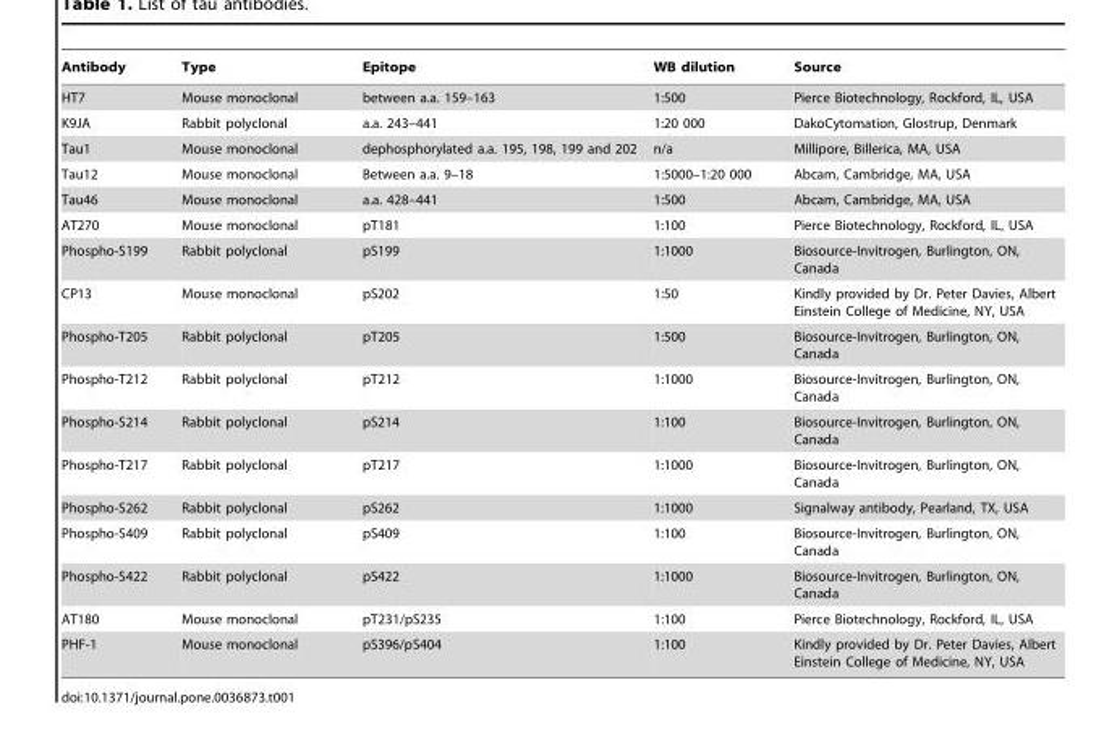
<table><thead><tr><td>Antibody</td><td>Type</td><td>Epitope</td><td>WB dilution</td><td>Source</td></tr></thead><tbody><tr><td>HT7</td><td>Mouse monoclonal</td><td>between a.a. 159–163</td><td>1:500</td><td>Pierce Biotechnology, Rockford, IL, USA</td></tr><tr><td>K9JA</td><td>Rabbit polyclonal</td><td>a.a. 243–441</td><td>1:20 000</td><td>DakoCytomation, Glostrup, Denmark</td></tr><tr><td>Tau1</td><td>Mouse monoclonal</td><td>dephosphorylated a.a. 195, 198, 199 and 202</td><td>n/a</td><td>Millipore, Billerica, MA, USA</td></tr><tr><td>Tau12</td><td>Mouse monoclonal</td><td>Between a.a. 9–18</td><td>1:5000–1:20 000</td><td>Abcam, Cambridge, MA, USA</td></tr><tr><td>Tau46</td><td>Mouse monoclonal</td><td>a.a. 428–441</td><td>1:500</td><td>Abcam, Cambridge, MA, USA</td></tr><tr><td>AT270</td><td>Mouse monoclonal</td><td>pT181</td><td>1:100</td><td>Pierce Biotechnology, Rockford, IL, USA</td></tr><tr><td>Phospho-S199</td><td>Rabbit polyclonal</td><td>pS199</td><td>1:1000</td><td>Biosource-Invitrogen, Burlington, ON, Canada</td></tr><tr><td>CP13</td><td>Mouse monoclonal</td><td>pS202</td><td>1:50</td><td>Kindly provided by Dr. Peter Davies, Albert Einstein College of Medicine, NY, USA</td></tr><tr><td>Phospho-T205</td><td>Rabbit polyclonal</td><td>pT205</td><td>1:500</td><td>Biosource-Invitrogen, Burlington, ON, Canada</td></tr><tr><td>Phospho-T212</td><td>Rabbit polyclonal</td><td>pT212</td><td>1:1000</td><td>Biosource-Invitrogen, Burlington, ON, Canada</td></tr><tr><td>Phospho-S214</td><td>Rabbit polyclonal</td><td>pS214</td><td>1:100</td><td>Biosource-Invitrogen, Burlington, ON, Canada</td></tr><tr><td>Phospho-T217</td><td>Rabbit polyclonal</td><td>pT217</td><td>1:1000</td><td>Biosource-Invitrogen, Burlington, ON, Canada</td></tr><tr><td>Phospho-S262</td><td>Rabbit polyclonal</td><td>pS262</td><td>1:1000</td><td>Signalway antibody, Pearland, TX, USA</td></tr><tr><td>Phospho-S409</td><td>Rabbit polyclonal</td><td>pS409</td><td>1:100</td><td>Biosource-Invitrogen, Burlington, ON, Canada</td></tr><tr><td>Phospho-S422</td><td>Rabbit polyclonal</td><td>pS422</td><td>1:1000</td><td>Biosource-Invitrogen, Burlington, ON, Canada</td></tr><tr><td>AT180</td><td>Mouse monoclonal</td><td>pT231/pS235</td><td>1:100</td><td>Pierce Biotechnology, Rockford, IL, USA</td></tr><tr><td>PHF-1</td><td>Mouse monoclonal</td><td>pS396/pS404</td><td>1:100</td><td>Kindly provided by Dr. Peter Davies, Albert Einstein College of Medicine, NY, USA</td></tr></tbody></table>